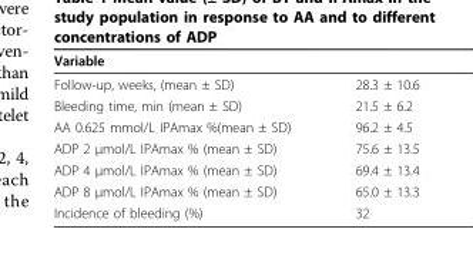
<table><thead><tr><td>Variable</td><td></td></tr></thead><tbody><tr><td>Follow-up, weeks, (mean ± SD)</td><td>28.3 ± 10.6</td></tr><tr><td>Bleeding time, min (mean ± SD)</td><td>21.5 ± 6.2</td></tr><tr><td>AA 0.625 mmol/L IPAmax %(mean ± SD)</td><td>96.2 ± 4.5</td></tr><tr><td>ADP 2 μmol/L IPAmax % (mean ± SD)</td><td>75.6 ± 13.5</td></tr><tr><td>ADP 4 μmol/L IPAmax % (mean ± SD)</td><td>69.4 ± 13.4</td></tr><tr><td>ADP 8 μmol/L IPAmax % (mean ± SD)</td><td>65.0 ± 13.3</td></tr><tr><td>Incidence of bleeding (%)</td><td>32</td></tr></tbody></table>